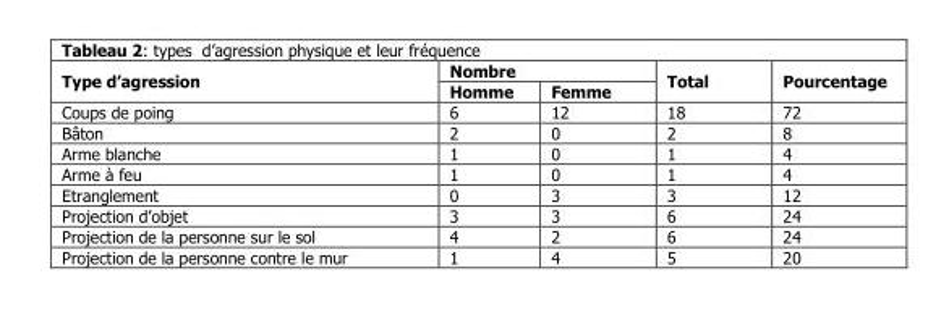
<table><thead><tr><td rowspan="2">Type d’agression</td><td colspan="2">Nombre</td><td rowspan="2">Total</td><td rowspan="2">Pourcentage</td></tr><tr><td>Homme</td><td>Femme</td></tr></thead><tbody><tr><td>Coups de poing</td><td>6</td><td>12</td><td>18</td><td>72</td></tr><tr><td>Bâton</td><td>2</td><td>0</td><td>2</td><td>8</td></tr><tr><td>Arme blanche</td><td>1</td><td>0</td><td>1</td><td>4</td></tr><tr><td>Arme à feu</td><td>1</td><td>0</td><td>1</td><td>4</td></tr><tr><td>Etranglement</td><td>0</td><td>3</td><td>3</td><td>12</td></tr><tr><td>Projection d’objet</td><td>3</td><td>3</td><td>6</td><td>24</td></tr><tr><td>Projection de la personne sur le sol</td><td>4</td><td>2</td><td>6</td><td>24</td></tr><tr><td>Projection de la personne contre le mur</td><td>1</td><td>4</td><td>5</td><td>20</td></tr></tbody></table>